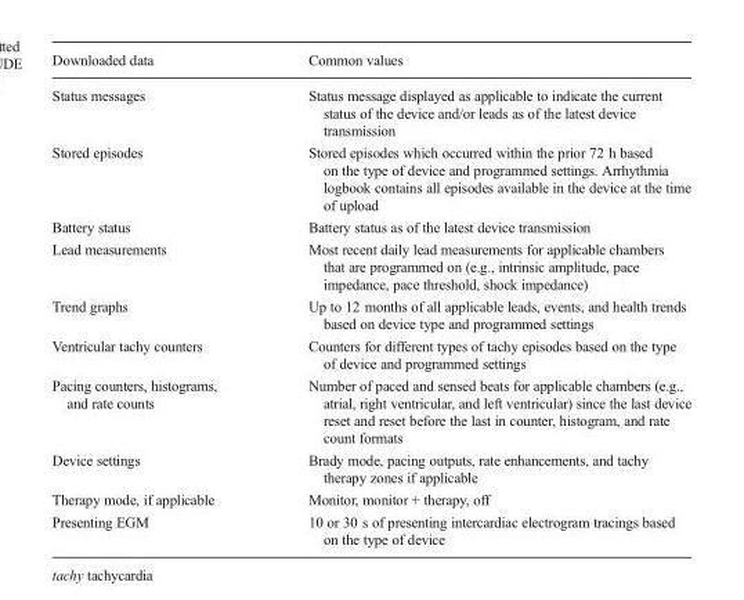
<table><thead><tr><td>Downloaded data</td><td>Common values</td></tr></thead><tbody><tr><td>Status messages</td><td>Status message displayed as applicable to indicate the current status of the device and/or leads as of the latest device transmission</td></tr><tr><td>Stored episodes</td><td>Stored episodes which occurred within the prior 72 h based on the type of device and programmed settings. Arrhythmia logbook contains all episodes available in the device at the time of upload</td></tr><tr><td>Battery status</td><td>Battery status as of the latest device transmission</td></tr><tr><td>Lead measurements</td><td>Most recent daily lead measurements for applicable chambers that are programmed on (e.g., intrinsic amplitude, pace impedance, pace threshold, shock impedance)</td></tr><tr><td>Trend graphs</td><td>Up to 12 months of all applicable leads, events, and health trends based on device type and programmed settings</td></tr><tr><td>Ventricular tachy counters</td><td>Counters for different types of tachy episodes based on the type of device and programmed settings</td></tr><tr><td>Pacing counters, histograms, and rate counts</td><td>Number of paced and sensed beats for applicable chambers (e.g., atrial, right ventricular, and left ventricular) since the last device reset and reset before the last in counter, histogram, and rate count formats</td></tr><tr><td>Device settings</td><td>Brady mode, pacing outputs, rate enhancements, and tachy therapy zones if applicable</td></tr><tr><td>Therapy mode, if applicable</td><td>Monitor, monitor + therapy, off</td></tr><tr><td>Presenting EGM</td><td>10 or 30 s of presenting intercardiac electrogram tracings based on the type of device</td></tr></tbody></table>